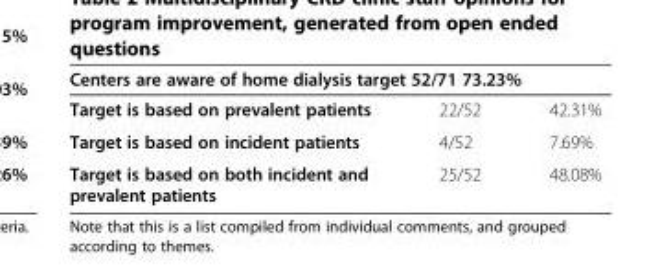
<table><thead><tr><td colspan="3">Centers are aware of home dialysis target 52/71 73.23%</td></tr><tr><td>Target is based on prevalent patients</td><td>22/52</td><td>42.31%</td></tr></thead><tbody><tr><td>Target is based on incident patients</td><td>4/52</td><td>7.69%</td></tr><tr><td>Target is based on both incident and prevalent patients</td><td>25/52</td><td>48.08%</td></tr></tbody></table>